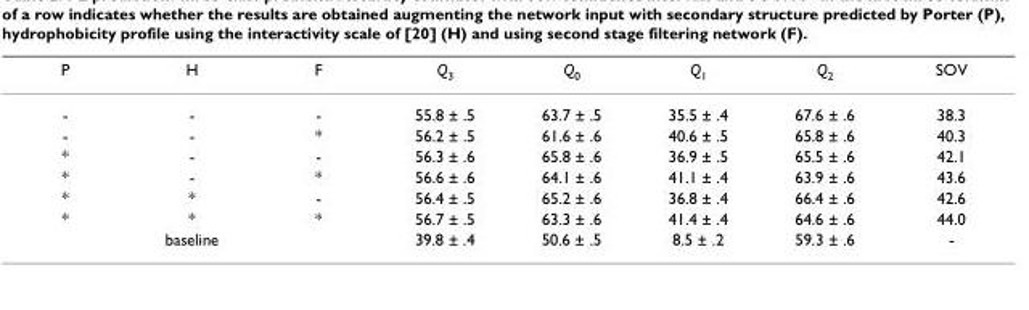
<table><thead><tr><td>P</td><td>H</td><td>F</td><td>Q3</td><td>Q0</td><td>Q1</td><td>Q2</td><td>SOV</td></tr></thead><tbody><tr><td>-</td><td>-</td><td>-</td><td>55.8 ± .5</td><td>63.7 ± .5</td><td>35.5 ± .4</td><td>67.6 ± .6</td><td>38.3</td></tr><tr><td>-</td><td>-</td><td>*</td><td>56.2 ± .5</td><td>61.6 ± .6</td><td>40.6 ± .5</td><td>65.8 ± .6</td><td>40.3</td></tr><tr><td>*</td><td>-</td><td>-</td><td>56.3 ± .6</td><td>65.8 ± .6</td><td>36.9 ± .5</td><td>65.5 ± .6</td><td>42.1</td></tr><tr><td>*</td><td>-</td><td>*</td><td>56.6 ± .6</td><td>64.1 ± .6</td><td>41.1 ± .4</td><td>63.9 ± .6</td><td>43.6</td></tr><tr><td>*</td><td>*</td><td>-</td><td>56.4 ± .5</td><td>65.2 ± .6</td><td>36.8 ± .4</td><td>66.4 ± .6</td><td>42.6</td></tr><tr><td>*</td><td>*</td><td>*</td><td>56.7 ± .5</td><td>63.3 ± .6</td><td>41.4 ± .4</td><td>64.6 ± .6</td><td>44.0</td></tr><tr><td colspan="3">baseline</td><td>39.8 ± .4</td><td>50.6 ± .5</td><td>8.5 ± .2</td><td>59.3 ± .6</td><td>-</td></tr></tbody></table>